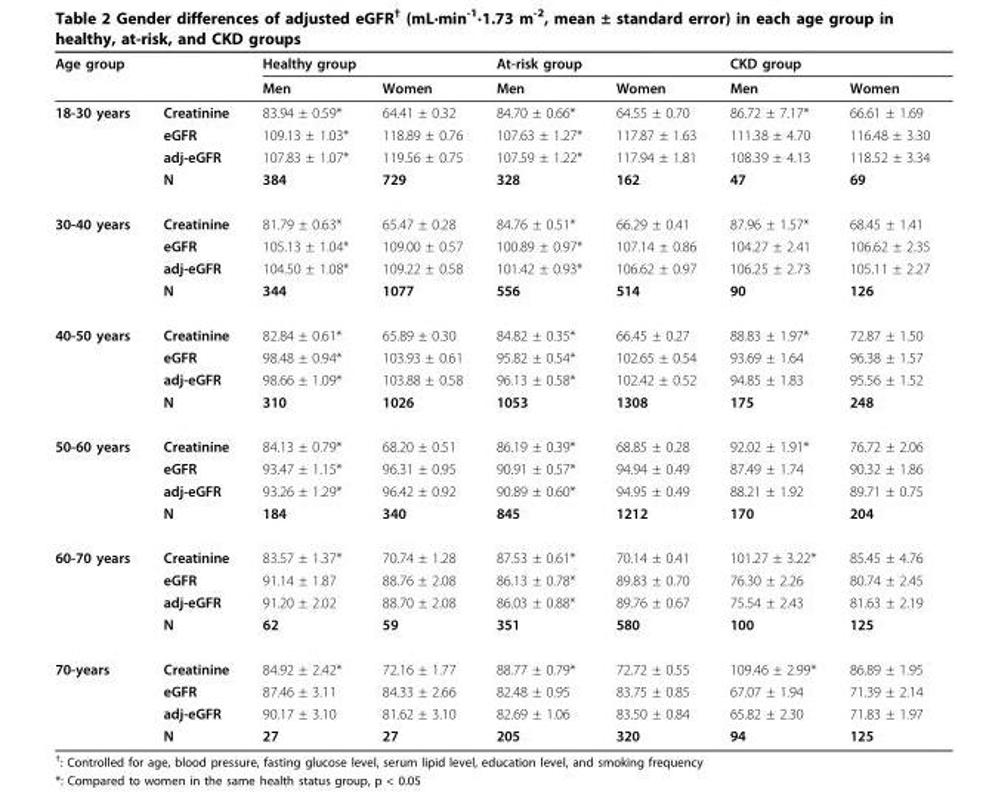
<table><thead><tr><td colspan="2">Age group</td><td colspan="2">Healthy group</td><td colspan="2">At-risk group</td><td colspan="2">CKD group</td></tr><tr><td></td><td></td><td>Men</td><td>Women</td><td>Men</td><td>Women</td><td>Men</td><td>Women</td></tr></thead><tbody><tr><td rowspan="4">18-30 years</td><td>Creatinine</td><td>83.94 ± 0.59*</td><td>64.41 ± 0.32</td><td>84.70 ± 0.66*</td><td>64.55 ± 0.70</td><td>86.72 ± 7.17*</td><td>66.61 ± 1.69</td></tr><tr><td>eGFR</td><td>109.13 ± 1.03*</td><td>118.89 ± 0.76</td><td>107.63 ± 1.27*</td><td>117.87 ± 1.63</td><td>111.38 ± 4.70</td><td>116.48 ± 3.30</td></tr><tr><td>adj-eGFR</td><td>107.83 ± 1.07*</td><td>119.56 ± 0.75</td><td>107.59 ± 1.22*</td><td>117.94 ± 1.81</td><td>108.39 ± 4.13</td><td>118.52 ± 3.34</td></tr><tr><td>N</td><td>384</td><td>729</td><td>328</td><td>162</td><td>47</td><td>69</td></tr><tr><td rowspan="4">30-40 years</td><td>Creatinine</td><td>81.79 ± 0.63*</td><td>65.47 ± 0.28</td><td>84.76 ± 0.51*</td><td>66.29 ± 0.41</td><td>87.96 ± 1.57*</td><td>68.45 ± 1.41</td></tr><tr><td>eGFR</td><td>105.13 ± 1.04*</td><td>109.00 ± 0.57</td><td>100.89 ± 0.97*</td><td>107.14 ± 0.86</td><td>104.27 ± 2.41</td><td>106.62 ± 2.35</td></tr><tr><td>adj-eGFR</td><td>104.50 ± 1.08*</td><td>109.22 ± 0.58</td><td>101.42 ± 0.93*</td><td>106.62 ± 0.97</td><td>106.25 ± 2.73</td><td>105.11 ± 2.27</td></tr><tr><td>N</td><td>344</td><td>1077</td><td>556</td><td>514</td><td>90</td><td>126</td></tr><tr><td rowspan="4">40-50 years</td><td>Creatinine</td><td>82.84 ± 0.61*</td><td>65.89 ± 0.30</td><td>84.82 ± 0.35*</td><td>66.45 ± 0.27</td><td>88.83 ± 1.97*</td><td>72.87 ± 1.50</td></tr><tr><td>eGFR</td><td>98.48 ± 0.94*</td><td>103.93 ± 0.61</td><td>95.82 ± 0.54*</td><td>102.65 ± 0.54</td><td>93.69 ± 1.64</td><td>96.38 ± 1.57</td></tr><tr><td>adj-eGFR</td><td>98.66 ± 1.09*</td><td>103.88 ± 0.58</td><td>96.13 ± 0.58*</td><td>102.42 ± 0.52</td><td>94.85 ± 1.83</td><td>95.56 ± 1.52</td></tr><tr><td>N</td><td>310</td><td>1026</td><td>1053</td><td>1308</td><td>175</td><td>248</td></tr><tr><td rowspan="4">50-60 years</td><td>Creatinine</td><td>84.13 ± 0.79*</td><td>68.20 ± 0.51</td><td>86.19 ± 0.39*</td><td>68.85 ± 0.28</td><td>92.02 ± 1.91*</td><td>76.72 ± 2.06</td></tr><tr><td>eGFR</td><td>93.47 ± 1.15*</td><td>96.31 ± 0.95</td><td>90.91 ± 0.57*</td><td>94.94 ± 0.49</td><td>87.49 ± 1.74</td><td>90.32 ± 1.86</td></tr><tr><td>adj-eGFR</td><td>93.26 ± 1.29*</td><td>96.42 ± 0.92</td><td>90.89 ± 0.60*</td><td>94.95 ± 0.49</td><td>88.21 ± 1.92</td><td>89.71 ± 0.75</td></tr><tr><td>N</td><td>184</td><td>340</td><td>845</td><td>1212</td><td>170</td><td>204</td></tr><tr><td rowspan="4">60-70 years</td><td>Creatinine</td><td>83.57 ± 1.37*</td><td>70.74 ± 1.28</td><td>87.53 ± 0.61*</td><td>70.14 ± 0.41</td><td>101.27 ± 3.22*</td><td>85.45 ± 4.76</td></tr><tr><td>eGFR</td><td>91.14 ± 1.87</td><td>88.76 ± 2.08</td><td>86.13 ± 0.78*</td><td>89.83 ± 0.70</td><td>76.30 ± 2.26</td><td>80.74 ± 2.45</td></tr><tr><td>adj-eGFR</td><td>91.20 ± 2.02</td><td>88.70 ± 2.08</td><td>86.03 ± 0.88*</td><td>89.76 ± 0.67</td><td>75.54 ± 2.43</td><td>81.63 ± 2.19</td></tr><tr><td>N</td><td>62</td><td>59</td><td>351</td><td>580</td><td>100</td><td>125</td></tr><tr><td rowspan="4">70-years</td><td>Creatinine</td><td>84.92 ± 2.42*</td><td>72.16 ± 1.77</td><td>88.77 ± 0.79*</td><td>72.72 ± 0.55</td><td>109.46 ± 2.99*</td><td>86.89 ± 1.95</td></tr><tr><td>eGFR</td><td>87.46 ± 3.11</td><td>84.33 ± 2.66</td><td>82.48 ± 0.95</td><td>83.75 ± 0.85</td><td>67.07 ± 1.94</td><td>71.39 ± 2.14</td></tr><tr><td>adj-eGFR</td><td>90.17 ± 3.10</td><td>81.62 ± 3.10</td><td>82.69 ± 1.06</td><td>83.50 ± 0.84</td><td>65.82 ± 2.30</td><td>71.83 ± 1.97</td></tr><tr><td>N</td><td>27</td><td>27</td><td>205</td><td>320</td><td>94</td><td>125</td></tr></tbody></table>